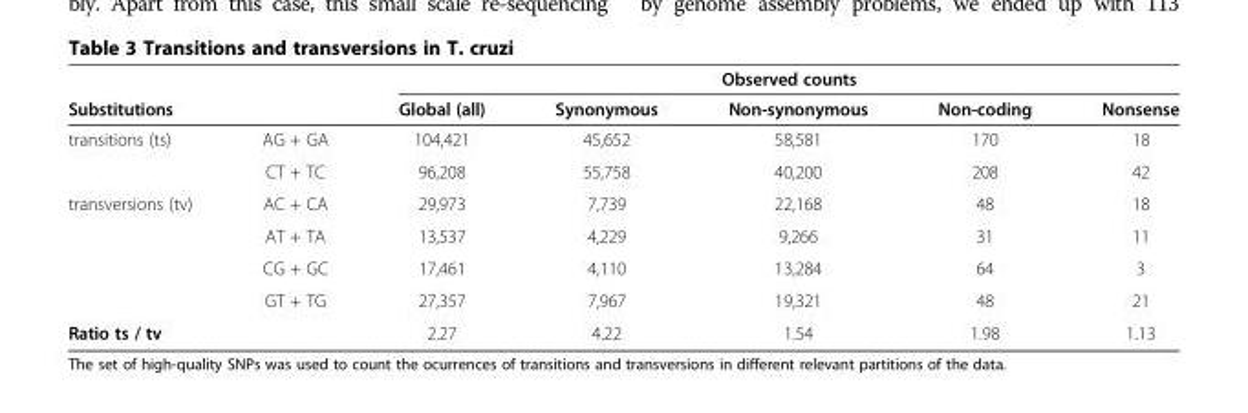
<table><thead><tr><td></td><td></td><td colspan="5">Observed counts</td></tr><tr><td colspan="2">Substitutions</td><td>Global (all)</td><td>Synonymous</td><td>Non-synonymous</td><td>Non-coding</td><td>Nonsense</td></tr></thead><tbody><tr><td rowspan="2">transitions (ts)</td><td>AG + GA</td><td>104,421</td><td>45,652</td><td>58,581</td><td>170</td><td>18</td></tr><tr><td>CT + TC</td><td>96,208</td><td>55,758</td><td>40,200</td><td>208</td><td>42</td></tr><tr><td rowspan="4">transversions (tv)</td><td>AC + CA</td><td>29,973</td><td>7,739</td><td>22,168</td><td>48</td><td>18</td></tr><tr><td>AT + TA</td><td>13,537</td><td>4,229</td><td>9,266</td><td>31</td><td>11</td></tr><tr><td>CG + GC</td><td>17,461</td><td>4,110</td><td>13,284</td><td>64</td><td>3</td></tr><tr><td>GT + TG</td><td>27,357</td><td>7,967</td><td>19,321</td><td>48</td><td>21</td></tr><tr><td colspan="2">Ratio ts / tv</td><td>2.27</td><td>4.22</td><td>1.54</td><td>1.98</td><td>1.13</td></tr></tbody></table>